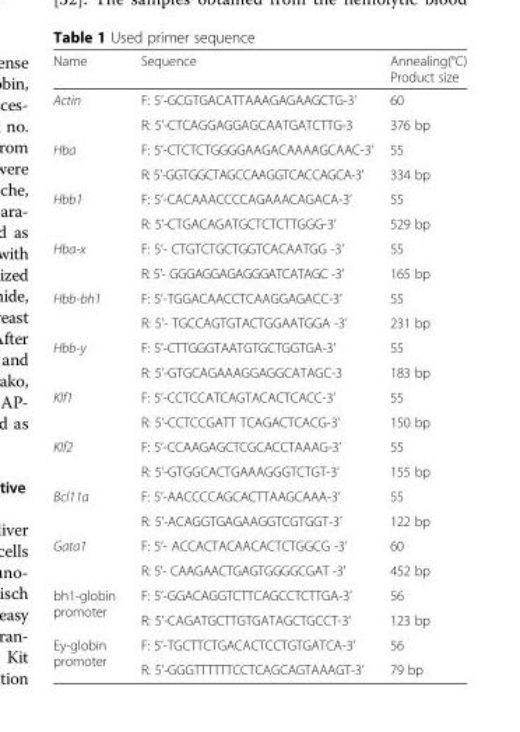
<table><thead><tr><td>Name</td><td>Sequence</td><td>Annealing(°C) Product size</td></tr></thead><tbody><tr><td rowspan="2">Actin</td><td>F: 5’-GCGTGACATTAAAGAGAAGCTG-3’</td><td>60</td></tr><tr><td>R: 5’-CTCAGGAGGAGCAATGATCTTG-3</td><td>376 bp</td></tr><tr><td rowspan="2">Hba</td><td>F: 5’-CTCTCTGGGGAAGACAAAAGCAAC-3’</td><td>55</td></tr><tr><td>R: 5’-GGTGGCTAGCCAAGGTCACCAGCA-3’</td><td>334 bp</td></tr><tr><td rowspan="2">Hbb1</td><td>F: 5’-CACAAACCCCAGAAACAGACA-3’</td><td>55</td></tr><tr><td>R: 5’-CTGACAGATGCTCTCTTGGG-3’</td><td>529 bp</td></tr><tr><td rowspan="2">Hba-x</td><td>F: 5’- CTGTCTGCTGGTCACAATGG -3’</td><td>55</td></tr><tr><td>R: 5’- GGGAGGAGAGGGATCATAGC -3’</td><td>165 bp</td></tr><tr><td rowspan="2">Hbb-bh1</td><td>F: 5’-TGGACAACCTCAAGGAGACC-3’</td><td>55</td></tr><tr><td>R: 5’- TGCCAGTGTACTGGAATGGA -3’</td><td>231 bp</td></tr><tr><td rowspan="2">Hbb-y</td><td>F: 5’-CTTGGGTAATGTGCTGGTGA-3’</td><td>55</td></tr><tr><td>R: 5’-GTGCAGAAAGGAGGCATAGC-3</td><td>183 bp</td></tr><tr><td rowspan="2">Klf1</td><td>F: 5’-CCTCCATCAGTACACTCACC-3’</td><td>55</td></tr><tr><td>R: 5’-CCTCCGATT TCAGACTCACG-3’</td><td>150 bp</td></tr><tr><td rowspan="2">Klf2</td><td>F: 5’-CCAAGAGCTCGCACCTAAAG-3’</td><td>55</td></tr><tr><td>R: 5’-GTGGCACTGAAAGGGTCTGT-3’</td><td>155 bp</td></tr><tr><td rowspan="2">Bcl11a</td><td>F: 5’-AACCCCAGCACTTAAGCAAA-3’</td><td>55</td></tr><tr><td>R: 5’-ACAGGTGAGAAGGTCGTGGT-3’</td><td>122 bp</td></tr><tr><td rowspan="2">Gata1</td><td>F: 5’- ACCACTACAACACTCTGGCG -3’</td><td>60</td></tr><tr><td>R: 5’- CAAGAACTGAGTGGGGCGAT -3’</td><td>452 bp</td></tr><tr><td rowspan="2">bh1-globin promoter</td><td>F: 5’-GGACAGGTCTTCAGCCTCTTGA-3’</td><td>56</td></tr><tr><td>R: 5’-CAGATGCTTGTGATAGCTGCCT-3’</td><td>123 bp</td></tr><tr><td rowspan="2">Ey-globin promoter</td><td>F: 5’-TGCTTCTGACACTCCTGTGATCA-3’</td><td>56</td></tr><tr><td>R: 5’-GGGTTTTTTCCTCAGCAGTAAAGT-3’</td><td>79 bp</td></tr></tbody></table>